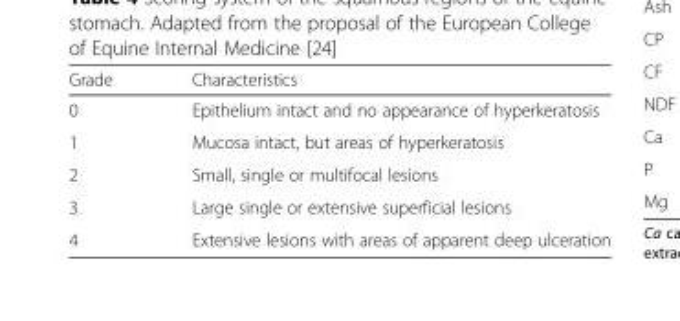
<table><thead><tr><td>Grade</td><td>Characteristics</td></tr></thead><tbody><tr><td>0</td><td>Epithelium intact and no appearance of hyperkeratosis</td></tr><tr><td>1</td><td>Mucosa intact, but areas of hyperkeratosis</td></tr><tr><td>2</td><td>Small, single or multifocal lesions</td></tr><tr><td>3</td><td>Large single or extensive superficial lesions</td></tr><tr><td>4</td><td>Extensive lesions with areas of apparent deep ulceration</td></tr></tbody></table>